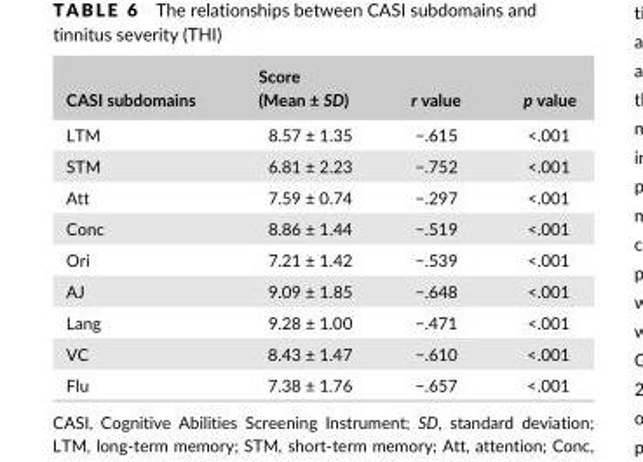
<table><thead><tr><td>CASI subdomains</td><td>Score (Mean ± SD)</td><td>r value</td><td>p value</td></tr></thead><tbody><tr><td>LTM</td><td>8.57 ± 1.35</td><td>−.615</td><td>&lt;.001</td></tr><tr><td>STM</td><td>6.81 ± 2.23</td><td>−.752</td><td>&lt;.001</td></tr><tr><td>Att</td><td>7.59 ± 0.74</td><td>−.297</td><td>&lt;.001</td></tr><tr><td>Conc</td><td>8.86 ± 1.44</td><td>−.519</td><td>&lt;.001</td></tr><tr><td>Ori</td><td>7.21 ± 1.42</td><td>−.539</td><td>&lt;.001</td></tr><tr><td>AJ</td><td>9.09 ± 1.85</td><td>−.648</td><td>&lt;.001</td></tr><tr><td>Lang</td><td>9.28 ± 1.00</td><td>−.471</td><td>&lt;.001</td></tr><tr><td>VC</td><td>8.43 ± 1.47</td><td>−.610</td><td>&lt;.001</td></tr><tr><td>Flu</td><td>7.38 ± 1.76</td><td>−.657</td><td>&lt;.001</td></tr></tbody></table>